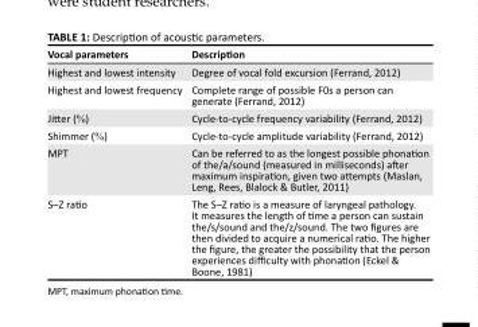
<table><thead><tr><td>Vocal parameters</td><td>Description</td></tr></thead><tbody><tr><td>Highest and lowest intensity</td><td>Degree of vocal fold excursion (Ferrand, 2012)</td></tr><tr><td>Highest and lowest frequency</td><td>Complete range of possible F0s a person can generate (Ferrand, 2012)</td></tr><tr><td>Jitter (%)</td><td>Cycle-to-cycle frequency variability (Ferrand, 2012)</td></tr><tr><td>Shimmer (%)</td><td>Cycle-to-cycle amplitude variability (Ferrand, 2012)</td></tr><tr><td>MPT</td><td>Can be referred to as the longest possible phonation of the/a/sound (measured in milliseconds) after maximum inspiration, given two attempts (Maslan, Leng, Rees, Blalock &amp; Butler, 2011)</td></tr><tr><td>S–Z ratio</td><td>The S–Z ratio is a measure of laryngeal pathology. It measures the length of time a person can sustain the/s/sound and the/z/sound. The two figures are then divided to acquire a numerical ratio. The higher the figure, the greater the possibility that the person experiences difficulty with phonation (Eckel &amp; Boone, 1981)</td></tr></tbody></table>